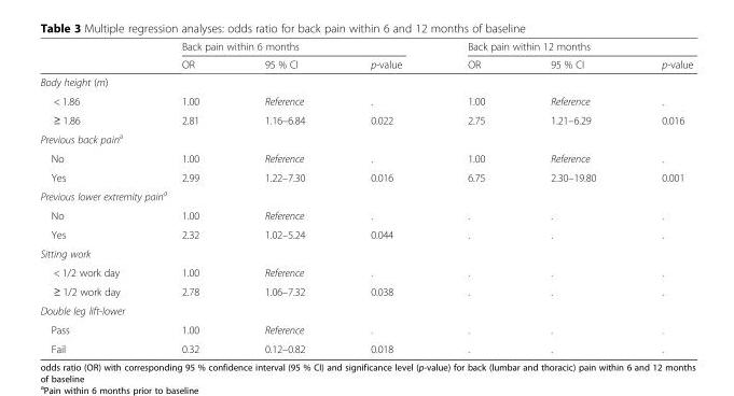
<table><thead><tr><td rowspan="2"></td><td colspan="3">Back pain within 6 months</td><td colspan="3">Back pain within 12 months</td></tr><tr><td>OR</td><td>95 % CI</td><td>p-value</td><td>OR</td><td>95 % CI</td><td>p-value</td></tr></thead><tbody><tr><td colspan="7">Body height (m)</td></tr><tr><td>&lt; 1.86</td><td>1.00</td><td>Reference</td><td>.</td><td>1.00</td><td>Reference</td><td>.</td></tr><tr><td>≥ 1.86</td><td>2.81</td><td>1.16–6.84</td><td>0.022</td><td>2.75</td><td>1.21–6.29</td><td>0.016</td></tr><tr><td colspan="7">Previous back pain<sup>a</sup></td></tr><tr><td>No</td><td>1.00</td><td>Reference</td><td>.</td><td>1.00</td><td>Reference</td><td>.</td></tr><tr><td>Yes</td><td>2.99</td><td>1.22–7.30</td><td>0.016</td><td>6.75</td><td>2.30–19.80</td><td>0.001</td></tr><tr><td colspan="7">Previous lower extremity pain<sup>a</sup></td></tr><tr><td>No</td><td>1.00</td><td>Reference</td><td>.</td><td>.</td><td>.</td><td>.</td></tr><tr><td>Yes</td><td>2.32</td><td>1.02–5.24</td><td>0.044</td><td>.</td><td>.</td><td>.</td></tr><tr><td colspan="7">Sitting work</td></tr><tr><td>&lt; 1/2 work day</td><td>1.00</td><td>Reference</td><td>.</td><td>.</td><td>.</td><td>.</td></tr><tr><td>≥ 1/2 work day</td><td>2.78</td><td>1.06–7.32</td><td>0.038</td><td>.</td><td>.</td><td>.</td></tr><tr><td colspan="7">Double leg lift-lower</td></tr><tr><td>Pass</td><td>1.00</td><td>Reference</td><td>.</td><td>.</td><td>.</td><td>.</td></tr><tr><td>Fail</td><td>0.32</td><td>0.12–0.82</td><td>0.018</td><td>.</td><td>.</td><td>.</td></tr></tbody></table>